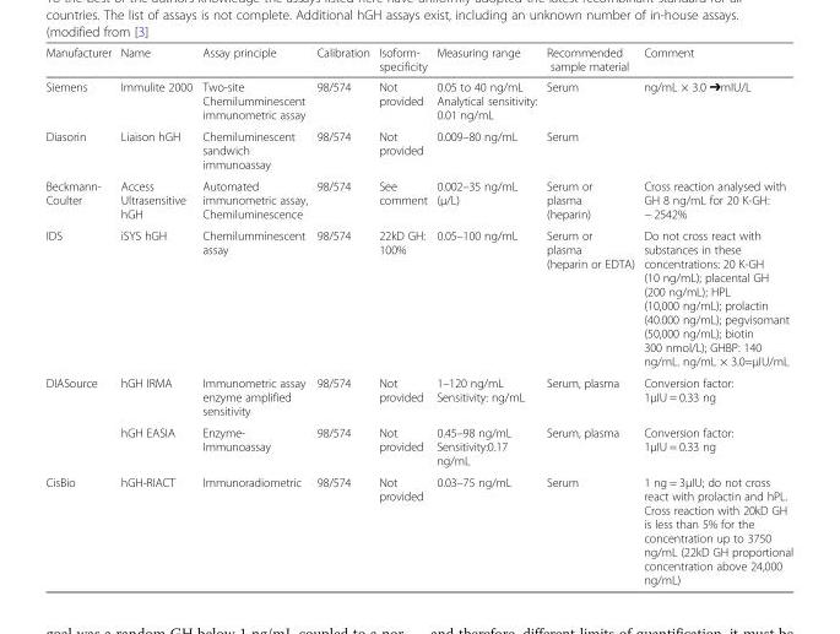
<table><thead><tr><td>Manufacturer</td><td>Name</td><td>Assay principle</td><td>Calibration</td><td>Isoform- specificity</td><td>Measuring range</td><td>Recommended sample material</td><td>Comment</td></tr></thead><tbody><tr><td>Siemens</td><td>Immulite 2000</td><td>Two-site Chemilumminescent immunometric assay</td><td>98/574</td><td>Not provided</td><td>0.05 to 40 ng/mL Analytical sensitivity: 0.01 ng/mL</td><td>Serum</td><td>ng/mL × 3.0 ➔mIU/L</td></tr><tr><td>Diasorin</td><td>Liaison hGH</td><td>Chemiluminescent sandwich immunoassay</td><td>98/574</td><td>Not provided</td><td>0.009–80 ng/mL</td><td>Serum</td><td></td></tr><tr><td>Beckmann- Coulter</td><td>Access Ultrasensitive hGH</td><td>Automated immunometric assay, Chemiluminescence</td><td>98/574</td><td>See comment</td><td>0.002–35 ng/mL (μ/L)</td><td>Serum or plasma (heparin)</td><td>Cross reaction analysed with GH 8 ng/mL for 20 K-GH: − 2542%</td></tr><tr><td>IDS</td><td>iSYS hGH</td><td>Chemilumminescent assay</td><td>98/574</td><td>22kD GH: 100%</td><td>0.05–100 ng/mL</td><td>Serum or plasma (heparin or EDTA)</td><td>Do not cross react with substances in these concentrations: 20 K-GH (10 ng/mL); placental GH (200 ng/mL); HPL (10,000 ng/mL); prolactin (40.000 ng/mL); pegvisomant (50,000 ng/mL); biotin 300 nmol/L); GHBP: 140 ng/mL. ng/mL × 3.0=μIU/mL</td></tr><tr><td rowspan="2">DIASource</td><td>hGH IRMA</td><td>Immunometric assay enzyme amplified sensitivity</td><td>98/574</td><td>Not provided</td><td>1–120 ng/mL Sensitivity: ng/mL</td><td>Serum, plasma</td><td>Conversion factor: 1μIU = 0.33 ng</td></tr><tr><td>hGH EASIA</td><td>Enzyme- Immunoassay</td><td>98/574</td><td>Not provided</td><td>0.45–98 ng/mL Sensitivity:0.17 ng/mL</td><td>Serum, plasma</td><td>Conversion factor: 1μIU = 0.33 ng</td></tr><tr><td>CisBio</td><td>hGH-RIACT</td><td>Immunoradiometric</td><td>98/574</td><td>Not provided</td><td>0.03–75 ng/mL</td><td>Serum</td><td>1 ng = 3μIU; do not cross react with prolactin and hPL. Cross reaction with 20kD GH is less than 5% for the concentration up to 3750 ng/mL (22kD GH proportional concentration above 24,000 ng/mL)</td></tr></tbody></table>